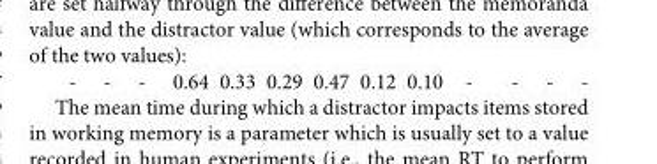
<table><tbody><tr><td>-</td><td>-</td><td>-</td><td>0.64</td><td>0.33</td><td>0.29</td><td>0.47</td><td>0.12</td><td>0.10</td><td>-</td><td>-</td><td>-</td><td>-</td></tr></tbody></table>